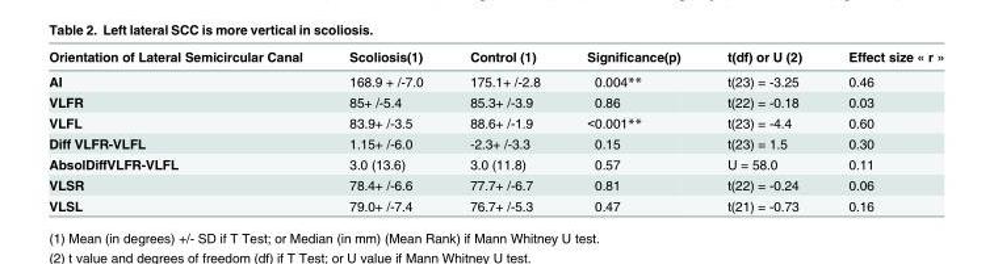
<table><thead><tr><td>Orientation of Lateral Semicircular Canal</td><td>Scoliosis(1)</td><td>Control (1)</td><td>Significance(p)</td><td>t(df) or U (2)</td><td>Effect size « r »</td></tr></thead><tbody><tr><td>AI</td><td>168.9 + /-7.0</td><td>175.1+ /-2.8</td><td>0.004**</td><td>t(23) = -3.25</td><td>0.46</td></tr><tr><td>VLFR</td><td>85+ /-5.4</td><td>85.3+ /-3.9</td><td>0.86</td><td>t(22) = -0.18</td><td>0.03</td></tr><tr><td>VLFL</td><td>83.9+ /-3.5</td><td>88.6+ /-1.9</td><td>&lt;0.001**</td><td>t(23) = -4.4</td><td>0.60</td></tr><tr><td>Diff VLFR-VLFL</td><td>1.15+ /-6.0</td><td>-2.3+ /-3.3</td><td>0.15</td><td>t(23) = 1.5</td><td>0.30</td></tr><tr><td>AbsolDiffVLFR-VLFL</td><td>3.0 (13.6)</td><td>3.0 (11.8)</td><td>0.57</td><td>U = 58.0</td><td>0.11</td></tr><tr><td>VLSR</td><td>78.4+ /-6.6</td><td>77.7+ /-6.7</td><td>0.81</td><td>t(22) = -0.24</td><td>0.06</td></tr><tr><td>VLSL</td><td>79.0+ /-7.4</td><td>76.7+ /-5.3</td><td>0.47</td><td>t(21) = -0.73</td><td>0.16</td></tr></tbody></table>